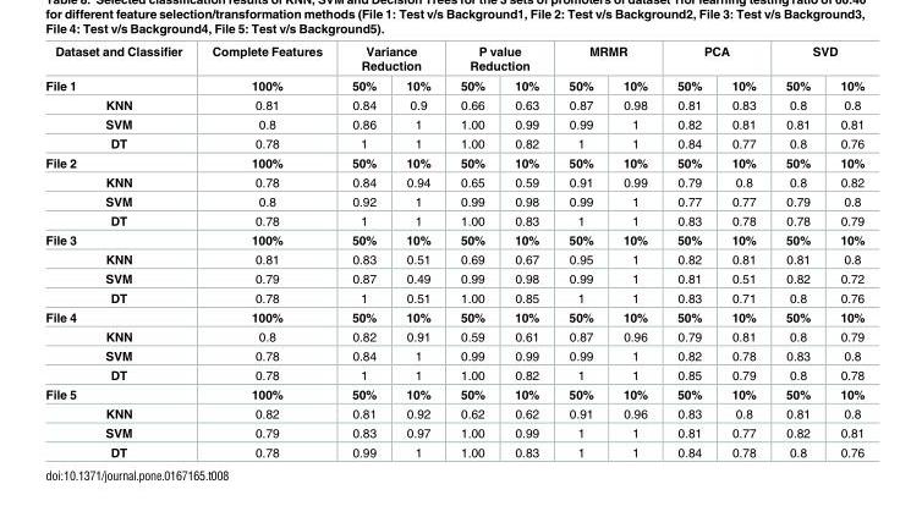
<table><thead><tr><td rowspan="2">Dataset and Classifier File 1</td><td rowspan="2">Complete Features 100%</td><td colspan="2">Variance Reduction</td><td colspan="2">P value Reduction</td><td colspan="2">MRMR</td><td colspan="2">PCA</td><td colspan="2">SVD</td></tr><tr><td>50%</td><td>10%</td><td>50%</td><td>10%</td><td>50%</td><td>10%</td><td>50%</td><td>10%</td><td>50%</td><td>10%</td></tr></thead><tbody><tr><td>KNN</td><td>0.81</td><td>0.84</td><td>0.9</td><td>0.66</td><td>0.63</td><td>0.87</td><td>0.98</td><td>0.81</td><td>0.83</td><td>0.8</td><td>0.8</td></tr><tr><td>SVM</td><td>0.8</td><td>0.86</td><td>1</td><td>1.00</td><td>0.99</td><td>0.99</td><td>1</td><td>0.82</td><td>0.81</td><td>0.81</td><td>0.81</td></tr><tr><td>DT</td><td>0.78</td><td>1</td><td>1</td><td>1.00</td><td>0.82</td><td>1</td><td>1</td><td>0.84</td><td>0.77</td><td>0.8</td><td>0.76</td></tr><tr><td>File 2</td><td>100%</td><td>50%</td><td>10%</td><td>50%</td><td>10%</td><td>50%</td><td>10%</td><td>50%</td><td>10%</td><td>50%</td><td>10%</td></tr><tr><td>KNN</td><td>0.78</td><td>0.84</td><td>0.94</td><td>0.65</td><td>0.59</td><td>0.91</td><td>0.99</td><td>0.79</td><td>0.8</td><td>0.8</td><td>0.82</td></tr><tr><td>SVM</td><td>0.8</td><td>0.92</td><td>1</td><td>0.99</td><td>0.98</td><td>0.99</td><td>1</td><td>0.77</td><td>0.77</td><td>0.79</td><td>0.8</td></tr><tr><td>DT</td><td>0.78</td><td>1</td><td>1</td><td>1.00</td><td>0.83</td><td>1</td><td>1</td><td>0.83</td><td>0.78</td><td>0.78</td><td>0.79</td></tr><tr><td>File 3</td><td>100%</td><td>50%</td><td>10%</td><td>50%</td><td>10%</td><td>50%</td><td>10%</td><td>50%</td><td>10%</td><td>50%</td><td>10%</td></tr><tr><td>KNN</td><td>0.81</td><td>0.83</td><td>0.51</td><td>0.69</td><td>0.67</td><td>0.95</td><td>1</td><td>0.82</td><td>0.81</td><td>0.81</td><td>0.8</td></tr><tr><td>SVM</td><td>0.79</td><td>0.87</td><td>0.49</td><td>0.99</td><td>0.98</td><td>0.99</td><td>1</td><td>0.81</td><td>0.51</td><td>0.82</td><td>0.72</td></tr><tr><td>DT</td><td>0.78</td><td>1</td><td>0.51</td><td>1.00</td><td>0.85</td><td>1</td><td>1</td><td>0.83</td><td>0.71</td><td>0.8</td><td>0.76</td></tr><tr><td>File 4</td><td>100%</td><td>50%</td><td>10%</td><td>50%</td><td>10%</td><td>50%</td><td>10%</td><td>50%</td><td>10%</td><td>50%</td><td>10%</td></tr><tr><td>KNN</td><td>0.8</td><td>0.82</td><td>0.91</td><td>0.59</td><td>0.61</td><td>0.87</td><td>0.96</td><td>0.79</td><td>0.81</td><td>0.8</td><td>0.79</td></tr><tr><td>SVM</td><td>0.78</td><td>0.84</td><td>1</td><td>0.99</td><td>0.99</td><td>0.99</td><td>1</td><td>0.82</td><td>0.78</td><td>0.83</td><td>0.8</td></tr><tr><td>DT</td><td>0.78</td><td>1</td><td>1</td><td>1.00</td><td>0.82</td><td>1</td><td>1</td><td>0.85</td><td>0.79</td><td>0.8</td><td>0.78</td></tr><tr><td>File 5</td><td>100%</td><td>50%</td><td>10%</td><td>50%</td><td>10%</td><td>50%</td><td>10%</td><td>50%</td><td>10%</td><td>50%</td><td>10%</td></tr><tr><td>KNN</td><td>0.82</td><td>0.81</td><td>0.92</td><td>0.62</td><td>0.62</td><td>0.91</td><td>0.96</td><td>0.83</td><td>0.8</td><td>0.81</td><td>0.8</td></tr><tr><td>SVM</td><td>0.79</td><td>0.83</td><td>0.97</td><td>1.00</td><td>0.99</td><td>1</td><td>1</td><td>0.81</td><td>0.77</td><td>0.82</td><td>0.81</td></tr><tr><td>DT</td><td>0.78</td><td>0.99</td><td>1</td><td>1.00</td><td>0.83</td><td>1</td><td>1</td><td>0.84</td><td>0.78</td><td>0.8</td><td>0.76</td></tr></tbody></table>